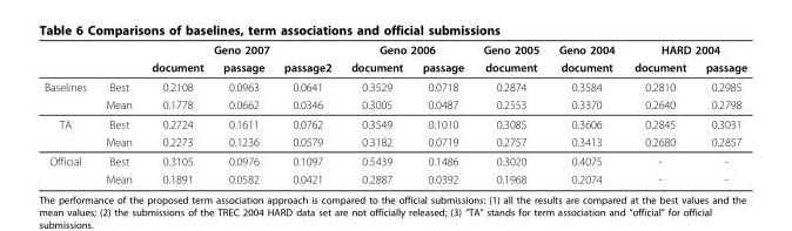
<table><thead><tr><td rowspan="2"></td><td rowspan="2"></td><td colspan="3">Geno 2007</td><td colspan="2">Geno 2006</td><td rowspan="2">Geno 2005 document</td><td rowspan="2">Geno 2004 document</td><td colspan="2">HARD 2004</td></tr><tr><td>document</td><td>passage</td><td>passage2</td><td>document</td><td>passage</td><td>document</td><td>passage</td></tr></thead><tbody><tr><td rowspan="2">Baselines</td><td>Best</td><td>0.2108</td><td>0.0963</td><td>0.0641</td><td>0.3529</td><td>0.0718</td><td>0.2874</td><td>0.3584</td><td>0.2810</td><td>0.2985</td></tr><tr><td>Mean</td><td>0.1778</td><td>0.0662</td><td>0.0346</td><td>0.3005</td><td>0.0487</td><td>0.2553</td><td>0.3370</td><td>0.2640</td><td>0.2798</td></tr><tr><td rowspan="2">TA</td><td>Best</td><td>0.2724</td><td>0.1611</td><td>0.0762</td><td>0.3549</td><td>0.1010</td><td>0.3085</td><td>0.3606</td><td>0.2845</td><td>0.3031</td></tr><tr><td>Mean</td><td>0.2273</td><td>0.1236</td><td>0.0579</td><td>0.3182</td><td>0.0719</td><td>0.2757</td><td>0.3413</td><td>0.2680</td><td>0.2857</td></tr><tr><td rowspan="2">Official</td><td>Best</td><td>0.3105</td><td>0.0976</td><td>0.1097</td><td>0.5439</td><td>0.1486</td><td>0.3020</td><td>0.4075</td><td>-</td><td>-</td></tr><tr><td>Mean</td><td>0.1891</td><td>0.0582</td><td>0.0421</td><td>0.2887</td><td>0.0392</td><td>0.1968</td><td>0.2074</td><td>-</td><td>-</td></tr></tbody></table>